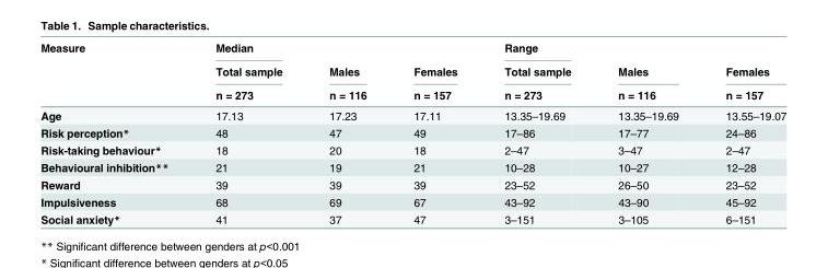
<table><thead><tr><td rowspan="3">Measure</td><td rowspan="3">Median Total sample n = 273</td><td rowspan="3">Males n = 116</td><td rowspan="3">Females n = 157</td><td rowspan="3">Range Total sample n = 273</td><td rowspan="3">Males n = 116</td><td rowspan="3">Females n = 157</td></tr><tr></tr><tr></tr></thead><tbody><tr><td>Age</td><td>17.13</td><td>17.23</td><td>17.11</td><td>13.35–19.69</td><td>13.35–19.69</td><td>13.55–19.07</td></tr><tr><td>Risk perception*</td><td>48</td><td>47</td><td>49</td><td>17–86</td><td>17–77</td><td>24–86</td></tr><tr><td>Risk-taking behaviour*</td><td>18</td><td>20</td><td>18</td><td>2–47</td><td>3–47</td><td>2–47</td></tr><tr><td>Behavioural inhibition**</td><td>21</td><td>19</td><td>21</td><td>10–28</td><td>10–27</td><td>12–28</td></tr><tr><td>Reward</td><td>39</td><td>39</td><td>39</td><td>23–52</td><td>26–50</td><td>23–52</td></tr><tr><td>Impulsiveness</td><td>68</td><td>69</td><td>67</td><td>43–92</td><td>43–90</td><td>45–92</td></tr><tr><td>Social anxiety*</td><td>41</td><td>37</td><td>47</td><td>3–151</td><td>3–105</td><td>6–151</td></tr></tbody></table>